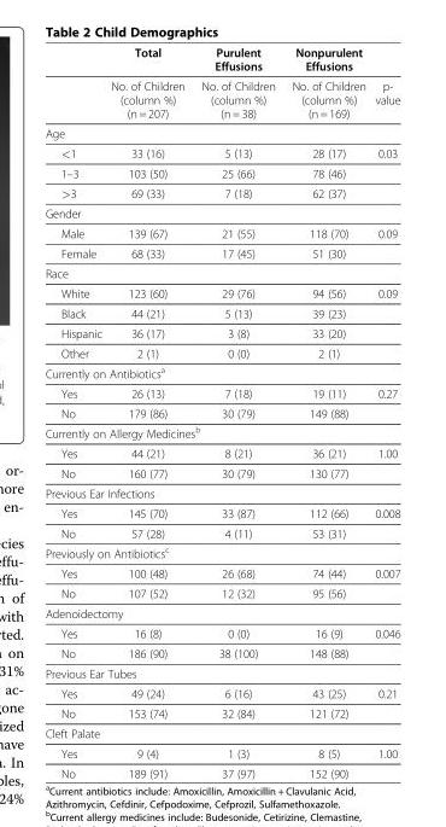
<table><thead><tr><td></td><td>Total</td><td>Purulent Effusions</td><td>Nonpurulent Effusions</td><td></td></tr></thead><tbody><tr><td></td><td>No. of Children (column %) (n = 207)</td><td>No. of Children (column %) (n = 38)</td><td>No. of Children (column %) (n = 169)</td><td>p- value</td></tr><tr><td colspan="5">Age</td></tr><tr><td>&lt;1</td><td>33 (16)</td><td>5 (13)</td><td>28 (17)</td><td>0.03</td></tr><tr><td>1–3</td><td>103 (50)</td><td>25 (66)</td><td>78 (46)</td><td></td></tr><tr><td>&gt;3</td><td>69 (33)</td><td>7 (18)</td><td>62 (37)</td><td></td></tr><tr><td colspan="5">Gender</td></tr><tr><td>Male</td><td>139 (67)</td><td>21 (55)</td><td>118 (70)</td><td>0.09</td></tr><tr><td>Female</td><td>68 (33)</td><td>17 (45)</td><td>51 (30)</td><td></td></tr><tr><td colspan="5">Race</td></tr><tr><td>White</td><td>123 (60)</td><td>29 (76)</td><td>94 (56)</td><td>0.09</td></tr><tr><td>Black</td><td>44 (21)</td><td>5 (13)</td><td>39 (23)</td><td></td></tr><tr><td>Hispanic</td><td>36 (17)</td><td>3 (8)</td><td>33 (20)</td><td></td></tr><tr><td>Other</td><td>2 (1)</td><td>0 (0)</td><td>2 (1)</td><td></td></tr><tr><td colspan="5">Currently on Antibiotics<sup>a</sup></td></tr><tr><td>Yes</td><td>26 (13)</td><td>7 (18)</td><td>19 (11)</td><td>0.27</td></tr><tr><td>No</td><td>179 (86)</td><td>30 (79)</td><td>149 (88)</td><td></td></tr><tr><td colspan="5">Currently on Allergy Medicines<sup>b</sup></td></tr><tr><td>Yes</td><td>44 (21)</td><td>8 (21)</td><td>36 (21)</td><td>1.00</td></tr><tr><td>No</td><td>160 (77)</td><td>30 (79)</td><td>130 (77)</td><td></td></tr><tr><td colspan="5">Previous Ear Infections</td></tr><tr><td>Yes</td><td>145 (70)</td><td>33 (87)</td><td>112 (66)</td><td>0.008</td></tr><tr><td>No</td><td>57 (28)</td><td>4 (11)</td><td>53 (31)</td><td></td></tr><tr><td colspan="5">Previously on Antibiotics<sup>c</sup></td></tr><tr><td>Yes</td><td>100 (48)</td><td>26 (68)</td><td>74 (44)</td><td>0.007</td></tr><tr><td>No</td><td>107 (52)</td><td>12 (32)</td><td>95 (56)</td><td></td></tr><tr><td colspan="5">Adenoidectomy</td></tr><tr><td>Yes</td><td>16 (8)</td><td>0 (0)</td><td>16 (9)</td><td>0.046</td></tr><tr><td>No</td><td>186 (90)</td><td>38 (100)</td><td>148 (88)</td><td></td></tr><tr><td colspan="5">Previous Ear Tubes</td></tr><tr><td>Yes</td><td>49 (24)</td><td>6 (16)</td><td>43 (25)</td><td>0.21</td></tr><tr><td>No</td><td>153 (74)</td><td>32 (84)</td><td>121 (72)</td><td></td></tr><tr><td colspan="5">Cleft Palate</td></tr><tr><td>Yes</td><td>9 (4)</td><td>1 (3)</td><td>8 (5)</td><td>1.00</td></tr><tr><td>No</td><td>189 (91)</td><td>37 (97)</td><td>152 (90)</td><td></td></tr></tbody></table>